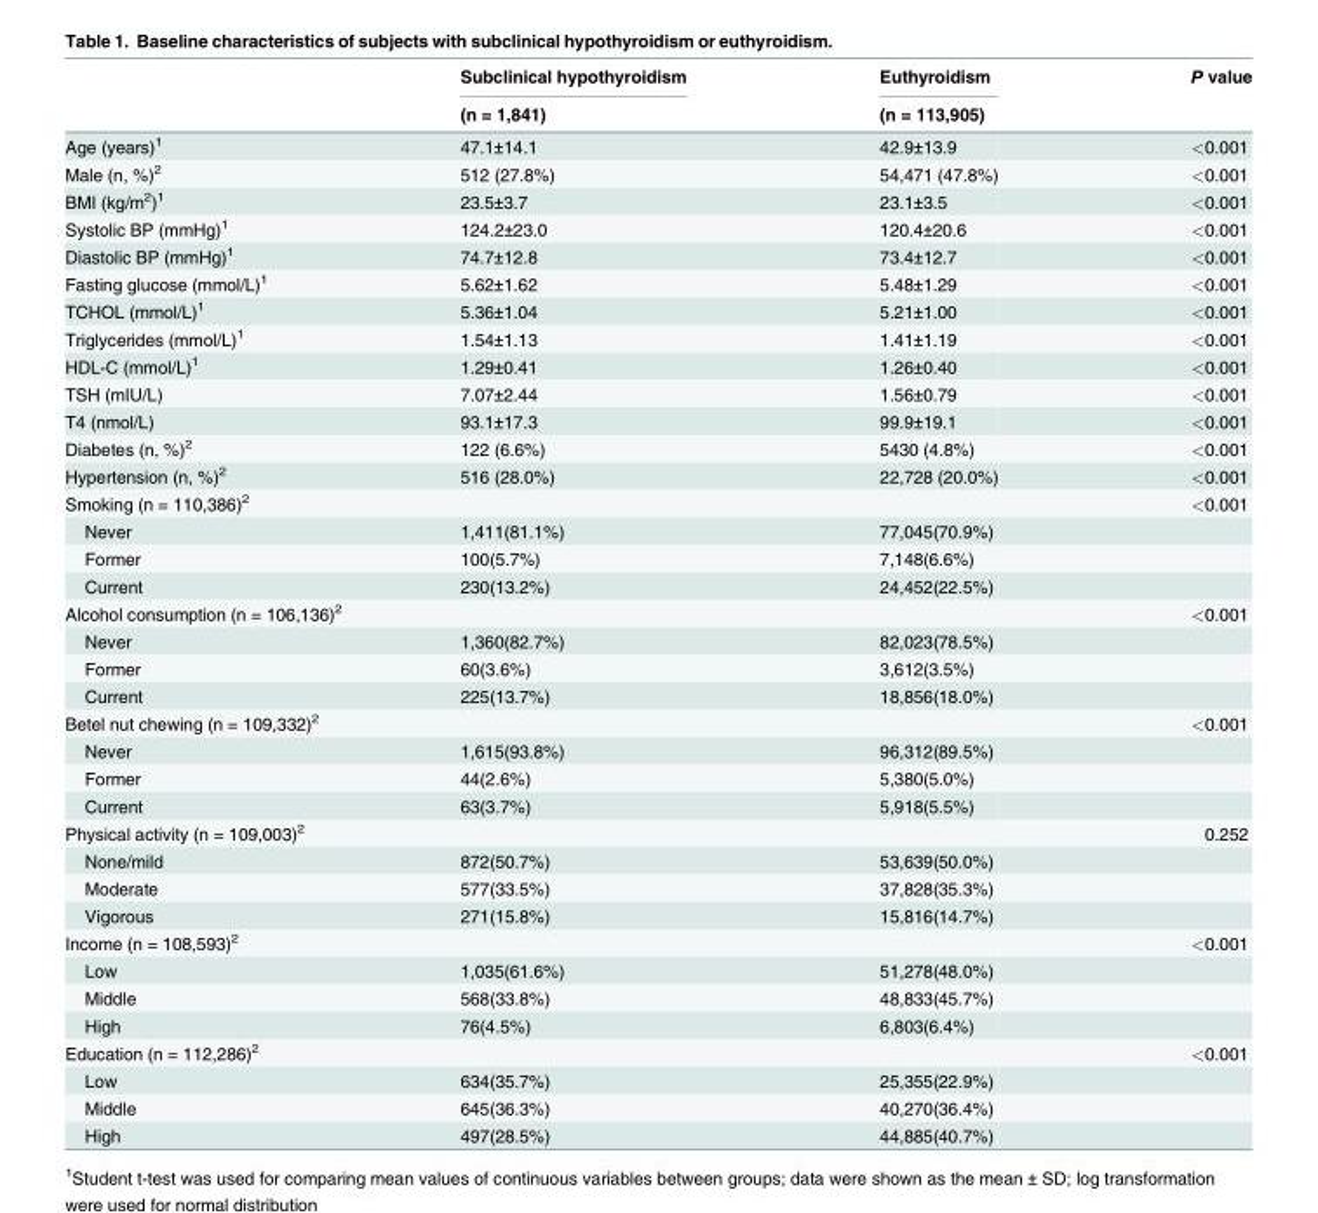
<table><thead><tr><td rowspan="2"></td><td rowspan="2">Subclinical hypothyroidism (n = 1,841)</td><td rowspan="2">Euthyroidism (n = 113,905)</td><td rowspan="2">P value</td></tr><tr></tr></thead><tbody><tr><td>Age (years)<sup>1</sup></td><td>47.1±14.1</td><td>42.9±13.9</td><td>&lt;0.001</td></tr><tr><td>Male (n, %)<sup>2</sup></td><td>512 (27.8%)</td><td>54,471 (47.8%)</td><td>&lt;0.001</td></tr><tr><td>BMI (kg/m<sup>2</sup>)<sup>1</sup></td><td>23.5±3.7</td><td>23.1±3.5</td><td>&lt;0.001</td></tr><tr><td>Systolic BP (mmHg)<sup>1</sup></td><td>124.2±23.0</td><td>120.4±20.6</td><td>&lt;0.001</td></tr><tr><td>Diastolic BP (mmHg)<sup>1</sup></td><td>74.7±12.8</td><td>73.4±12.7</td><td>&lt;0.001</td></tr><tr><td>Fasting glucose (mmol/L)<sup>1</sup></td><td>5.62±1.62</td><td>5.48±1.29</td><td>&lt;0.001</td></tr><tr><td>TCHOL (mmol/L)<sup>1</sup></td><td>5.36±1.04</td><td>5.21±1.00</td><td>&lt;0.001</td></tr><tr><td>Triglycerides (mmol/L)<sup>1</sup></td><td>1.54±1.13</td><td>1.41±1.19</td><td>&lt;0.001</td></tr><tr><td>HDL-C (mmol/L)<sup>1</sup></td><td>1.29±0.41</td><td>1.26±0.40</td><td>&lt;0.001</td></tr><tr><td>TSH (mIU/L)</td><td>7.07±2.44</td><td>1.56±0.79</td><td>&lt;0.001</td></tr><tr><td>T4 (nmol/L)</td><td>93.1±17.3</td><td>99.9±19.1</td><td>&lt;0.001</td></tr><tr><td>Diabetes (n, %)<sup>2</sup></td><td>122 (6.6%)</td><td>5430 (4.8%)</td><td>&lt;0.001</td></tr><tr><td>Hypertension (n, %)<sup>2</sup></td><td>516 (28.0%)</td><td>22,728 (20.0%)</td><td>&lt;0.001</td></tr><tr><td colspan="3">Smoking (n = 110,386)<sup>2</sup></td><td>&lt;0.001</td></tr><tr><td>Never</td><td>1,411(81.1%)</td><td>77,045(70.9%)</td><td></td></tr><tr><td>Former</td><td>100(5.7%)</td><td>7,148(6.6%)</td><td></td></tr><tr><td>Current</td><td>230(13.2%)</td><td>24,452(22.5%)</td><td></td></tr><tr><td colspan="3">Alcohol consumption (n = 106,136)<sup>2</sup></td><td>&lt;0.001</td></tr><tr><td>Never</td><td>1,360(82.7%)</td><td>82,023(78.5%)</td><td></td></tr><tr><td>Former</td><td>60(3.6%)</td><td>3,612(3.5%)</td><td></td></tr><tr><td>Current</td><td>225(13.7%)</td><td>18,856(18.0%)</td><td></td></tr><tr><td colspan="3">Betel nut chewing (n = 109,332)<sup>2</sup></td><td>&lt;0.001</td></tr><tr><td>Never</td><td>1,615(93.8%)</td><td>96,312(89.5%)</td><td></td></tr><tr><td>Former</td><td>44(2.6%)</td><td>5,380(5.0%)</td><td></td></tr><tr><td>Current</td><td>63(3.7%)</td><td>5,918(5.5%)</td><td></td></tr><tr><td colspan="3">Physical activity (n = 109,003)<sup>2</sup></td><td>0.252</td></tr><tr><td>None/mild</td><td>872(50.7%)</td><td>53,639(50.0%)</td><td></td></tr><tr><td>Moderate</td><td>577(33.5%)</td><td>37,828(35.3%)</td><td></td></tr><tr><td>Vigorous</td><td>271(15.8%)</td><td>15,816(14.7%)</td><td></td></tr><tr><td colspan="3">Income (n = 108,593)<sup>2</sup></td><td>&lt;0.001</td></tr><tr><td>Low</td><td>1,035(61.6%)</td><td>51,278(48.0%)</td><td></td></tr><tr><td>Middle</td><td>568(33.8%)</td><td>48,833(45.7%)</td><td></td></tr><tr><td>High</td><td>76(4.5%)</td><td>6,803(6.4%)</td><td></td></tr><tr><td colspan="3">Education (n = 112,286)<sup>2</sup></td><td>&lt;0.001</td></tr><tr><td>Low</td><td>634(35.7%)</td><td>25,355(22.9%)</td><td></td></tr><tr><td>Middle</td><td>645(36.3%)</td><td>40,270(36.4%)</td><td></td></tr><tr><td>High</td><td>497(28.5%)</td><td>44,885(40.7%)</td><td></td></tr></tbody></table>